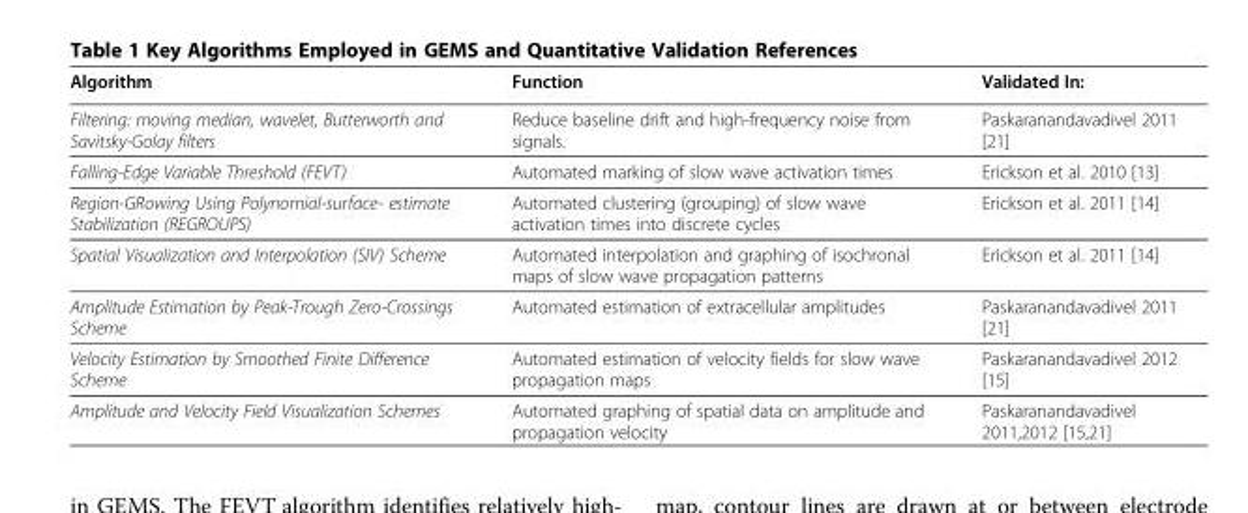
<table><thead><tr><td>Algorithm</td><td>Function</td><td>Validated In:</td></tr></thead><tbody><tr><td>Filtering: moving median, wavelet, Butterworth and Savitsky-Golay filters</td><td>Reduce baseline drift and high-frequency noise from signals.</td><td>Paskaranandavadivel 2011 [21]</td></tr><tr><td>Falling-Edge Variable Threshold (FEVT)</td><td>Automated marking of slow wave activation times</td><td>Erickson et al. 2010 [13]</td></tr><tr><td>Region-GRowing Using Polynomial-surface- estimate Stabilization (REGROUPS)</td><td>Automated clustering (grouping) of slow wave activation times into discrete cycles</td><td>Erickson et al. 2011 [14]</td></tr><tr><td>Spatial Visualization and Interpolation (SIV) Scheme</td><td>Automated interpolation and graphing of isochronal maps of slow wave propagation patterns</td><td>Erickson et al. 2011 [14]</td></tr><tr><td>Amplitude Estimation by Peak-Trough Zero-Crossings Scheme</td><td>Automated estimation of extracellular amplitudes</td><td>Paskaranandavadivel 2011 [21]</td></tr><tr><td>Velocity Estimation by Smoothed Finite Difference Scheme</td><td>Automated estimation of velocity fields for slow wave propagation maps</td><td>Paskaranandavadivel 2012 [15]</td></tr><tr><td>Amplitude and Velocity Field Visualization Schemes</td><td>Automated graphing of spatial data on amplitude and propagation velocity</td><td>Paskaranandavadivel 2011,2012 [15,21]</td></tr></tbody></table>